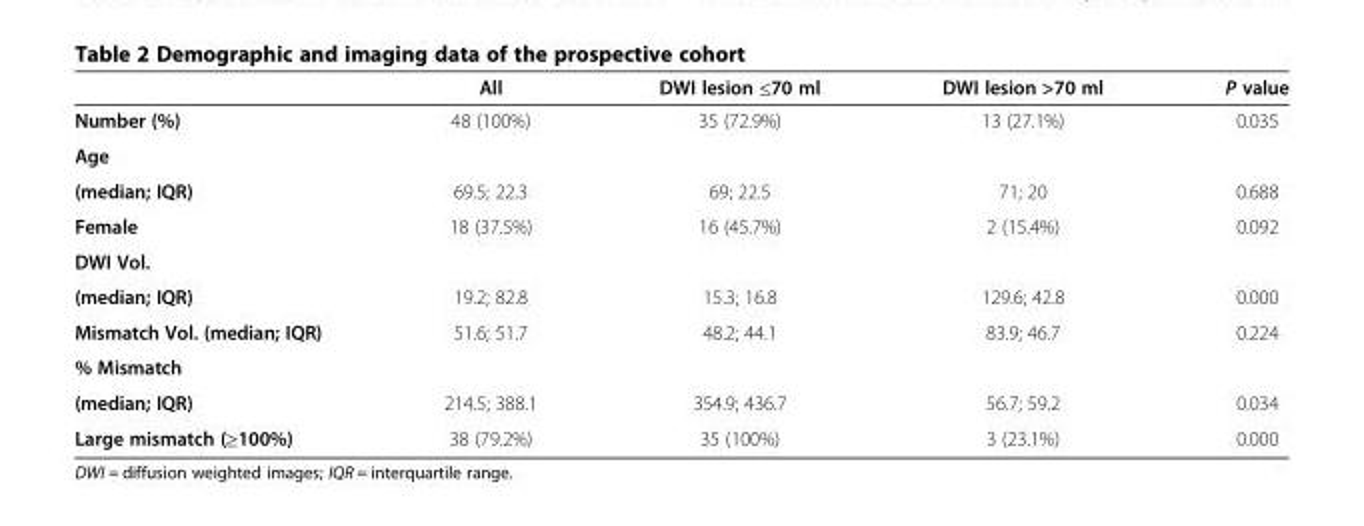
<table><thead><tr><td></td><td>All</td><td>DWI lesion ≤70 ml</td><td>DWI lesion &gt;70 ml</td><td>P value</td></tr></thead><tbody><tr><td>Number (%)</td><td>48 (100%)</td><td>35 (72.9%)</td><td>13 (27.1%)</td><td>0.035</td></tr><tr><td colspan="5">Age</td></tr><tr><td>(median; IQR)</td><td>69.5; 22.3</td><td>69; 22.5</td><td>71; 20</td><td>0.688</td></tr><tr><td>Female</td><td>18 (37.5%)</td><td>16 (45.7%)</td><td>2 (15.4%)</td><td>0.092</td></tr><tr><td colspan="5">DWI Vol.</td></tr><tr><td>(median; IQR)</td><td>19.2; 82.8</td><td>15.3; 16.8</td><td>129.6; 42.8</td><td>0.000</td></tr><tr><td>Mismatch Vol. (median; IQR)</td><td>51.6; 51.7</td><td>48.2; 44.1</td><td>83.9; 46.7</td><td>0.224</td></tr><tr><td colspan="5">% Mismatch</td></tr><tr><td>(median; IQR)</td><td>214.5; 388.1</td><td>354.9; 436.7</td><td>56.7; 59.2</td><td>0.034</td></tr><tr><td>Large mismatch (≥100%)</td><td>38 (79.2%)</td><td>35 (100%)</td><td>3 (23.1%)</td><td>0.000</td></tr></tbody></table>